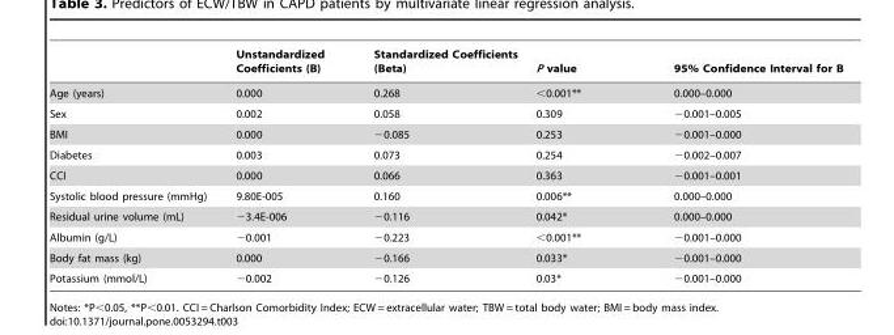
<table><thead><tr><td></td><td>Unstandardized Coefficients (B)</td><td>Standardized Coefficients (Beta)</td><td>P value</td><td>95% Confidence Interval for B</td></tr></thead><tbody><tr><td>Age (years)</td><td>0.000</td><td>0.268</td><td>&lt;0.001**</td><td>0.000–0.000</td></tr><tr><td>Sex</td><td>0.002</td><td>0.058</td><td>0.309</td><td>−0.001–0.005</td></tr><tr><td>BMI</td><td>0.000</td><td>−0.085</td><td>0.253</td><td>−0.001–0.000</td></tr><tr><td>Diabetes</td><td>0.003</td><td>0.073</td><td>0.254</td><td>−0.002–0.007</td></tr><tr><td>CCI</td><td>0.000</td><td>0.066</td><td>0.363</td><td>−0.001–0.001</td></tr><tr><td>Systolic blood pressure (mmHg)</td><td>9.80E-005</td><td>0.160</td><td>0.006**</td><td>0.000–0.000</td></tr><tr><td>Residual urine volume (mL)</td><td>−3.4E-006</td><td>−0.116</td><td>0.042*</td><td>0.000–0.000</td></tr><tr><td>Albumin (g/L)</td><td>−0.001</td><td>−0.223</td><td>&lt;0.001**</td><td>−0.001–0.000</td></tr><tr><td>Body fat mass (kg)</td><td>0.000</td><td>−0.166</td><td>0.033*</td><td>−0.001–0.000</td></tr><tr><td>Potassium (mmol/L)</td><td>−0.002</td><td>−0.126</td><td>0.03*</td><td>−0.001–0.000</td></tr></tbody></table>